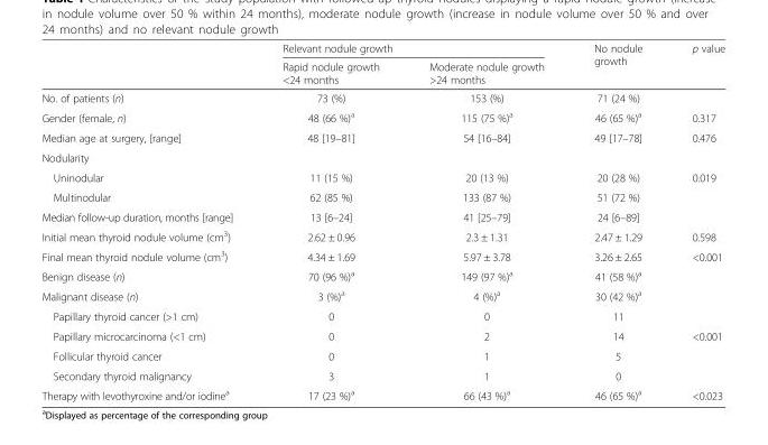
<table><thead><tr><td rowspan="2"></td><td colspan="2">Relevant nodule growth</td><td rowspan="2">No nodule growth</td><td rowspan="2">p value</td></tr><tr><td>Rapid nodule growth &lt;24 months</td><td>Moderate nodule growth &gt;24 months</td></tr></thead><tbody><tr><td>No. of patients (n)</td><td>73 (%)</td><td>153 (%)</td><td>71 (24 %)</td><td></td></tr><tr><td>Gender (female, n)</td><td>48 (66 %)<sup>a</sup></td><td>115 (75 %)<sup>a</sup></td><td>46 (65 %)<sup>a</sup></td><td>0.317</td></tr><tr><td>Median age at surgery, [range]</td><td>48 [19–81]</td><td>54 [16–84]</td><td>49 [17–78]</td><td>0.476</td></tr><tr><td colspan="5">Nodularity</td></tr><tr><td>Uninodular</td><td>11 (15 %)</td><td>20 (13 %)</td><td>20 (28 %)</td><td rowspan="2">0.019</td></tr><tr><td>Multinodular</td><td>62 (85 %)</td><td>133 (87 %)</td><td>51 (72 %)</td></tr><tr><td>Median follow-up duration, months [range]</td><td>13 [6–24]</td><td>41 [25–79]</td><td>24 [6–89]</td><td></td></tr><tr><td>Initial mean thyroid nodule volume (cm<sup>3</sup>)</td><td>2.62 ± 0.96</td><td>2.3 ± 1.31</td><td>2.47 ± 1.29</td><td>0.598</td></tr><tr><td>Final mean thyroid nodule volume (cm<sup>3</sup>)</td><td>4.34 ± 1.69</td><td>5.97 ± 3.78</td><td>3.26 ± 2.65</td><td>&lt;0.001</td></tr><tr><td>Benign disease (n)</td><td>70 (96 %)<sup>a</sup></td><td>149 (97 %)<sup>a</sup></td><td>41 (58 %)<sup>a</sup></td><td rowspan="2"></td></tr><tr><td>Malignant disease (n)</td><td>3 (%)<sup>a</sup></td><td>4 (%)<sup>a</sup></td><td>30 (42 %)<sup>a</sup></td></tr><tr><td>Papillary thyroid cancer (&gt;1 cm)</td><td>0</td><td>0</td><td>11</td><td></td></tr><tr><td>Papillary microcarcinoma (&lt;1 cm)</td><td>0</td><td>2</td><td>14</td><td rowspan="3">&lt;0.001</td></tr><tr><td>Follicular thyroid cancer</td><td>0</td><td>1</td><td>5</td></tr><tr><td>Secondary thyroid malignancy</td><td>3</td><td>1</td><td>0</td></tr><tr><td>Therapy with levothyroxine and/or iodine<sup>a</sup></td><td>17 (23 %)<sup>a</sup></td><td>66 (43 %)<sup>a</sup></td><td>46 (65 %)<sup>a</sup></td><td>&lt;0.023</td></tr></tbody></table>